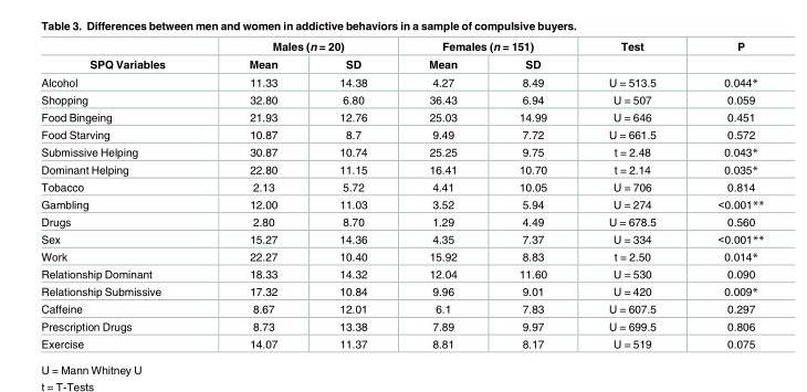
<table><thead><tr><td rowspan="2">SPQ Variables</td><td colspan="2">Males (n = 20)</td><td colspan="2">Females (n = 151)</td><td rowspan="2">Test</td><td rowspan="2">P</td></tr><tr><td>Mean</td><td>SD</td><td>Mean</td><td>SD</td></tr></thead><tbody><tr><td>Alcohol</td><td>11.33</td><td>14.38</td><td>4.27</td><td>8.49</td><td>U = 513.5</td><td>0.044*</td></tr><tr><td>Shopping</td><td>32.80</td><td>6.80</td><td>36.43</td><td>6.94</td><td>U = 507</td><td>0.059</td></tr><tr><td>Food Bingeing</td><td>21.93</td><td>12.76</td><td>25.03</td><td>14.99</td><td>U = 646</td><td>0.451</td></tr><tr><td>Food Starving</td><td>10.87</td><td>8.7</td><td>9.49</td><td>7.72</td><td>U = 661.5</td><td>0.572</td></tr><tr><td>Submissive Helping</td><td>30.87</td><td>10.74</td><td>25.25</td><td>9.75</td><td>t = 2.48</td><td>0.043*</td></tr><tr><td>Dominant Helping</td><td>22.80</td><td>11.15</td><td>16.41</td><td>10.70</td><td>t = 2.14</td><td>0.035*</td></tr><tr><td>Tobacco</td><td>2.13</td><td>5.72</td><td>4.41</td><td>10.05</td><td>U = 706</td><td>0.814</td></tr><tr><td>Gambling</td><td>12.00</td><td>11.03</td><td>3.52</td><td>5.94</td><td>U = 274</td><td>&lt;0.001**</td></tr><tr><td>Drugs</td><td>2.80</td><td>8.70</td><td>1.29</td><td>4.49</td><td>U = 678.5</td><td>0.560</td></tr><tr><td>Sex</td><td>15.27</td><td>14.36</td><td>4.35</td><td>7.37</td><td>U = 334</td><td>&lt;0.001**</td></tr><tr><td>Work</td><td>22.27</td><td>10.40</td><td>15.92</td><td>8.83</td><td>t = 2.50</td><td>0.014*</td></tr><tr><td>Relationship Dominant</td><td>18.33</td><td>14.32</td><td>12.04</td><td>11.60</td><td>U = 530</td><td>0.090</td></tr><tr><td>Relationship Submissive</td><td>17.32</td><td>10.84</td><td>9.96</td><td>9.01</td><td>U = 420</td><td>0.009*</td></tr><tr><td>Caffeine</td><td>8.67</td><td>12.01</td><td>6.1</td><td>7.83</td><td>U = 607.5</td><td>0.297</td></tr><tr><td>Prescription Drugs</td><td>8.73</td><td>13.38</td><td>7.89</td><td>9.97</td><td>U = 699.5</td><td>0.806</td></tr><tr><td>Exercise</td><td>14.07</td><td>11.37</td><td>8.81</td><td>8.17</td><td>U = 519</td><td>0.075</td></tr></tbody></table>